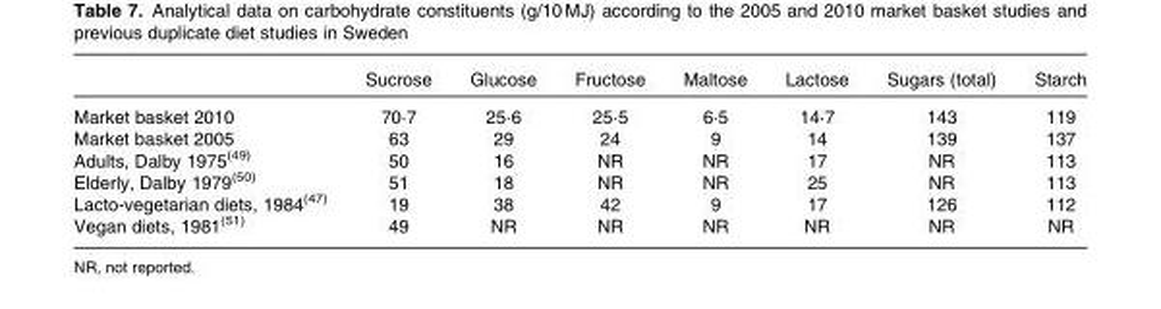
<table><thead><tr><td></td><td>Sucrose</td><td>Glucose</td><td>Fructose</td><td>Maltose</td><td>Lactose</td><td>Sugars (total)</td><td>Starch</td></tr></thead><tbody><tr><td>Market basket 2010</td><td>70·7</td><td>25·6</td><td>25·5</td><td>6·5</td><td>14·7</td><td>143</td><td>119</td></tr><tr><td>Market basket 2005</td><td>63</td><td>29</td><td>24</td><td>9</td><td>14</td><td>139</td><td>137</td></tr><tr><td>Adults, Dalby 1975<sup>(49)</sup></td><td>50</td><td>16</td><td>NR</td><td>NR</td><td>17</td><td>NR</td><td>113</td></tr><tr><td>Elderly, Dalby 1979<sup>(50)</sup></td><td>51</td><td>18</td><td>NR</td><td>NR</td><td>25</td><td>NR</td><td>113</td></tr><tr><td>Lacto-vegetarian diets, 1984<sup>(47)</sup></td><td>19</td><td>38</td><td>42</td><td>9</td><td>17</td><td>126</td><td>112</td></tr><tr><td>Vegan diets, 1981<sup>(51)</sup></td><td>49</td><td>NR</td><td>NR</td><td>NR</td><td>NR</td><td>NR</td><td>NR</td></tr></tbody></table>